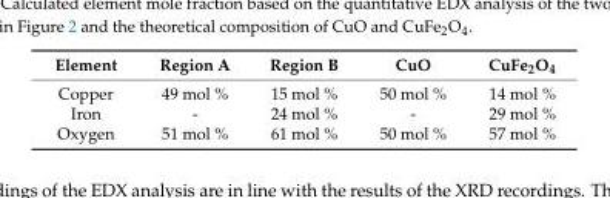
<table><thead><tr><td>Element</td><td>Region A</td><td>Region B</td><td>CuO</td><td>CuFe<sub>2</sub>O<sub>4</sub></td></tr></thead><tbody><tr><td>Copper</td><td>49 mol %</td><td>15 mol %</td><td>50 mol %</td><td>14 mol %</td></tr><tr><td>Iron</td><td>-</td><td>24 mol %</td><td>-</td><td>29 mol %</td></tr><tr><td>Oxygen</td><td>51 mol %</td><td>61 mol %</td><td>50 mol %</td><td>57 mol %</td></tr></tbody></table>